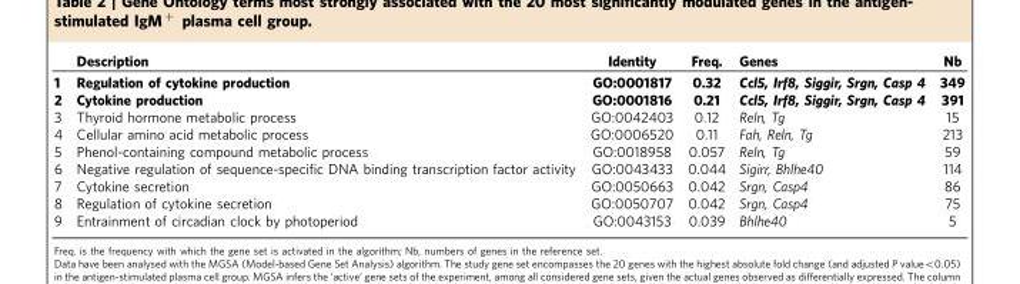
<table><thead><tr><td></td><td>Description</td><td>Identity</td><td>Freq.</td><td>Genes</td><td>Nb</td></tr></thead><tbody><tr><td>1</td><td>Regulation of cytokine production</td><td>GO:0001817</td><td>0.32</td><td>Ccl5, Irf8, Siggir, Srgn, Casp 4</td><td>349</td></tr><tr><td>2</td><td>Cytokine production</td><td>GO:0001816</td><td>0.21</td><td>Ccl5, Irf8, Siggir, Srgn, Casp 4</td><td>391</td></tr><tr><td>3</td><td>Thyroid hormone metabolic process</td><td>GO:0042403</td><td>0.12</td><td>Reln, Tg</td><td>15</td></tr><tr><td>4</td><td>Cellular amino acid metabolic process</td><td>GO:0006520</td><td>0.11</td><td>Fah, Reln, Tg</td><td>213</td></tr><tr><td>5</td><td>Phenol-containing compound metabolic process</td><td>GO:0018958</td><td>0.057</td><td>Reln, Tg</td><td>59</td></tr><tr><td>6</td><td>Negative regulation of sequence-specific DNA binding transcription factor activity</td><td>GO:0043433</td><td>0.044</td><td>Sigirr, Bhlhe40</td><td>114</td></tr><tr><td>7</td><td>Cytokine secretion</td><td>GO:0050663</td><td>0.042</td><td>Srgn, Casp4</td><td>86</td></tr><tr><td>8</td><td>Regulation of cytokine secretion</td><td>GO:0050707</td><td>0.042</td><td>Srgn, Casp4</td><td>75</td></tr><tr><td>9</td><td>Entrainment of circadian clock by photoperiod</td><td>GO:0043153</td><td>0.039</td><td>Bhlhe40</td><td>5</td></tr></tbody></table>